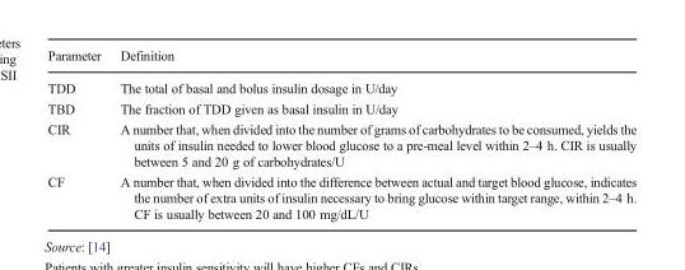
<table><thead><tr><td>Parameter</td><td>Definition</td></tr></thead><tbody><tr><td>TDD</td><td>The total of basal and bolus insulin dosage in U/day</td></tr><tr><td>TBD</td><td>The fraction of TDD given as basal insulin in U/day</td></tr><tr><td>CIR</td><td>A number that, when divided into the number of grams of carbohydrates to be consumed, yields the units of insulin needed to lower blood glucose to a pre-meal level within 2–4 h. CIR is usually between 5 and 20 g of carbohydrates/U</td></tr><tr><td>CF</td><td>A number that, when divided into the difference between actual and target blood glucose, indicates the number of extra units of insulin necessary to bring glucose within target range, within 2–4 h. CF is usually between 20 and 100 mg/dL/U</td></tr></tbody></table>